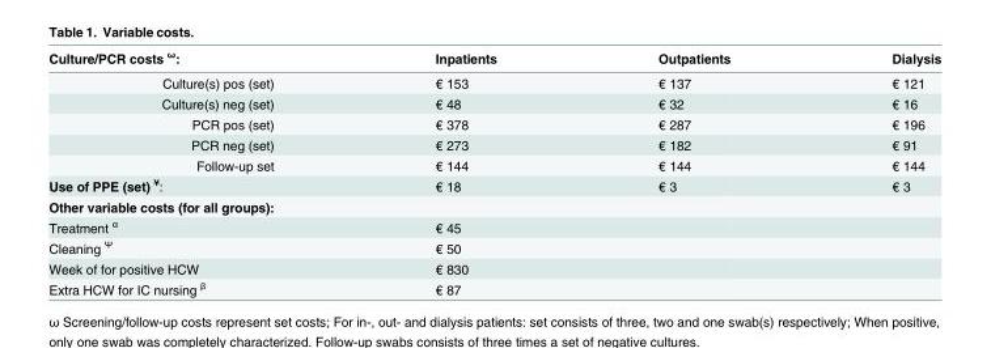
<table><thead><tr><td>Culture/PCR costs <sup>ω</sup>:</td><td>Inpatients</td><td>Outpatients</td><td>Dialysis</td></tr></thead><tbody><tr><td>Culture(s) pos (set)</td><td>€ 153</td><td>€ 137</td><td>€ 121</td></tr><tr><td>Culture(s) neg (set)</td><td>€ 48</td><td>€ 32</td><td>€ 16</td></tr><tr><td>PCR pos (set)</td><td>€ 378</td><td>€ 287</td><td>€ 196</td></tr><tr><td>PCR neg (set)</td><td>€ 273</td><td>€ 182</td><td>€ 91</td></tr><tr><td>Follow-up set</td><td>€ 144</td><td>€ 144</td><td>€ 144</td></tr><tr><td>Use of PPE (set) <sup>¥</sup>:</td><td>€ 18</td><td>€ 3</td><td>€ 3</td></tr><tr><td colspan="4">Other variable costs (for all groups):</td></tr><tr><td>Treatment <sup>α</sup></td><td>€ 45</td><td></td><td></td></tr><tr><td>Cleaning <sup>Ψ</sup></td><td>€ 50</td><td></td><td></td></tr><tr><td>Week of for positive HCW</td><td>€ 830</td><td></td><td></td></tr><tr><td>Extra HCW for IC nursing <sup>β</sup></td><td>€ 87</td><td></td><td></td></tr></tbody></table>